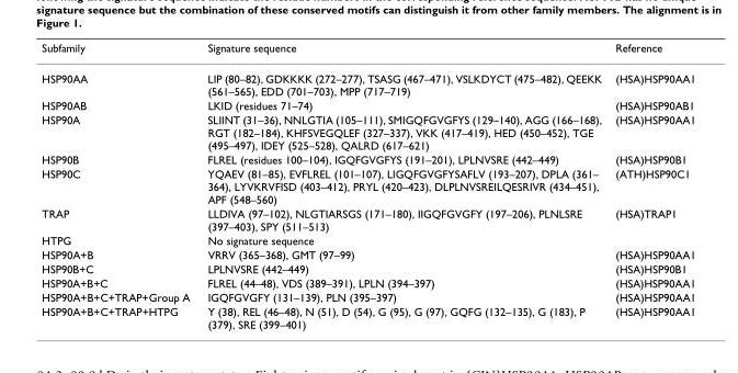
<table><thead><tr><td>Subfamily</td><td>Signature sequence</td><td>Reference</td></tr></thead><tbody><tr><td>HSP90AA</td><td>LIP (80–82), GDKKKK (272–277), TSASG (467–471), VSLKDYCT (475–482), QEEKK (561–565), EDD (701–703), MPP (717–719)</td><td>(HSA)HSP90AA1</td></tr><tr><td>HSP90AB</td><td>LKID (residues 71–74)</td><td>(HSA)HSP90AB1</td></tr><tr><td>HSP90A</td><td>SLIINT (31–36), NNLGTIA (105–111), SMIGQFGVGFYS (129–140), AGG (166–168), RGT (182–184), KHFSVEGQLEF (327–337), VKK (417–419), HED (450–452), TGE (495–497), IDEY (525–528), QALRD (617–621)</td><td>(HSA)HSP90AA1</td></tr><tr><td>HSP90B</td><td>FLREL (residues 100–104), IGQFGVGFYS (191–201), LPLNVSRE (442–449)</td><td>(HSA)HSP90B1</td></tr><tr><td>HSP90C</td><td>YQAEV (81–85), EVFLREL (101–107), LIGQFGVGFYSAFLV (193–207), DPLA (361– 364), LYVKRVFISD (403–412), PRYL (420–423), DLPLNVSREILQESRIVR (434–451), APF (548–560)</td><td>(ATH)HSP90C1</td></tr><tr><td>TRAP</td><td>LLDIVA (97–102), NLGTIARSGS (171–180), IIGQFGVGFY (197–206), PLNLSRE (397–403), SPY (511–513)</td><td>(HSA)TRAP1</td></tr><tr><td>HTPG</td><td>No signature sequence</td><td></td></tr><tr><td>HSP90A+B</td><td>VRRV (365–368), GMT (97–99)</td><td>(HSA)HSP90AA1</td></tr><tr><td>HSP90B+C</td><td>LPLNVSRE (442–449)</td><td>(HSA)HSP90B1</td></tr><tr><td>HSP90A+B+C</td><td>FLREL (44–48), VDS (389–391), LPLN (394–397)</td><td>(HSA)HSP90AA1</td></tr><tr><td>HSP90A+B+C+TRAP+Group A</td><td>IGQFGVGFY (131–139), PLN (395–397)</td><td>(HSA)HSP90AA1</td></tr><tr><td>HSP90A+B+C+TRAP+HTPG</td><td>Y (38), REL (46–48), N (51), D (54), G (95), G (97), GQFG (132–135), G (183), P (379), SRE (399–401)</td><td>(HSA)HSP90AA1</td></tr></tbody></table>